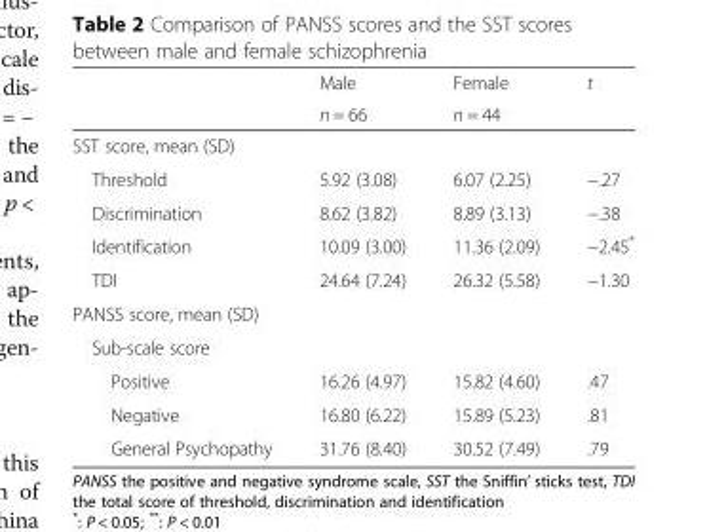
<table><thead><tr><td rowspan="2"></td><td rowspan="2">Male n = 66</td><td rowspan="2">Female n = 44</td><td rowspan="2">t</td></tr><tr></tr></thead><tbody><tr><td colspan="4">SST score, mean (SD)</td></tr><tr><td>Threshold</td><td>5.92 (3.08)</td><td>6.07 (2.25)</td><td>−.27</td></tr><tr><td>Discrimination</td><td>8.62 (3.82)</td><td>8.89 (3.13)</td><td>−.38</td></tr><tr><td>Identification</td><td>10.09 (3.00)</td><td>11.36 (2.09)</td><td>−2.45*</td></tr><tr><td>TDI</td><td>24.64 (7.24)</td><td>26.32 (5.58)</td><td>−1.30</td></tr><tr><td colspan="4">PANSS score, mean (SD)</td></tr><tr><td colspan="4">Sub-scale score</td></tr><tr><td>Positive</td><td>16.26 (4.97)</td><td>15.82 (4.60)</td><td>.47</td></tr><tr><td>Negative</td><td>16.80 (6.22)</td><td>15.89 (5.23)</td><td>.81</td></tr><tr><td>General Psychopathy</td><td>31.76 (8.40)</td><td>30.52 (7.49)</td><td>.79</td></tr></tbody></table>